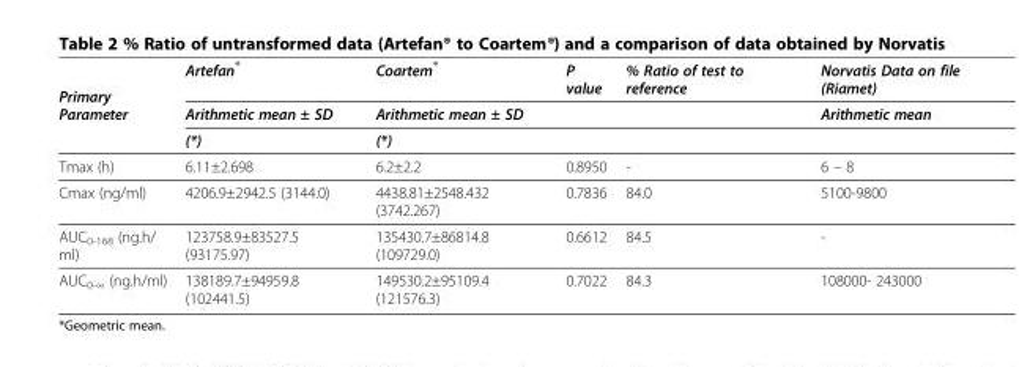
<table><thead><tr><td rowspan="3">Primary Parameter</td><td rowspan="3">Artefan<sup>®</sup> Arithmetic mean ± SD (*)</td><td rowspan="3">Coartem<sup>®</sup> Arithmetic mean ± SD (*)</td><td rowspan="3">P value</td><td rowspan="3">% Ratio of test to reference</td><td rowspan="3">Norvatis Data on file (Riamet) Arithmetic mean</td></tr><tr></tr><tr></tr></thead><tbody><tr><td>Tmax (h)</td><td>6.11±2.698</td><td>6.2±2.2</td><td>0.8950</td><td>-</td><td>6 – 8</td></tr><tr><td>Cmax (ng/ml)</td><td>4206.9±2942.5 (3144.0)</td><td>4438.81±2548.432 (3742.267)</td><td>0.7836</td><td>84.0</td><td>5100-9800</td></tr><tr><td>AUC<sub>0-168</sub> (ng.h/ ml)</td><td>123758.9±83527.5 (93175.97)</td><td>135430.7±86814.8 (109729.0)</td><td>0.6612</td><td>84.5</td><td>-</td></tr><tr><td>AUC<sub>0-∞</sub> (ng.h/ml)</td><td>138189.7±94959.8 (102441.5)</td><td>149530.2±95109.4 (121576.3)</td><td>0.7022</td><td>84.3</td><td>108000- 243000</td></tr></tbody></table>